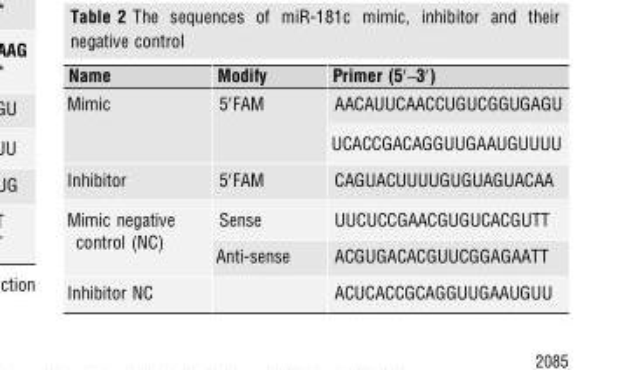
<table><thead><tr><td>Name</td><td>Modify</td><td>Primer (5′–3′)</td></tr></thead><tbody><tr><td rowspan="2">Mimic</td><td rowspan="2">5′FAM</td><td>AACAUUCAACCUGUCGGUGAGU</td></tr><tr><td>UCACCGACAGGUUGAAUGUUUU</td></tr><tr><td>Inhibitor</td><td>5′FAM</td><td>CAGUACUUUUGUGUAGUACAA</td></tr><tr><td rowspan="2">Mimic negative control (NC)</td><td>Sense</td><td>UUCUCCGAACGUGUCACGUTT</td></tr><tr><td>Anti-sense</td><td>ACGUGACACGUUCGGAGAATT</td></tr><tr><td>Inhibitor NC</td><td></td><td>ACUCACCGCAGGUUGAAUGUU</td></tr></tbody></table>